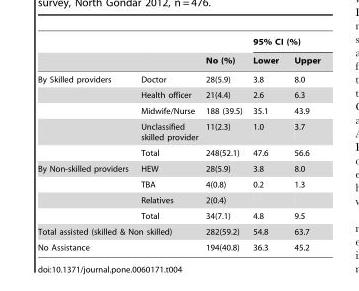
<table><thead><tr><td rowspan="2"></td><td rowspan="2"></td><td rowspan="2">No (%)</td><td colspan="2">95% CI (%)</td></tr><tr><td>Lower</td><td>Upper</td></tr></thead><tbody><tr><td rowspan="5">By Skilled providers</td><td>Doctor</td><td>28(5.9)</td><td>3.8</td><td>8.0</td></tr><tr><td>Health officer</td><td>21(4.4)</td><td>2.6</td><td>6.3</td></tr><tr><td>Midwife/Nurse</td><td>188 (39.5)</td><td>35.1</td><td>43.9</td></tr><tr><td>Unclassified skilled provider</td><td>11(2.3)</td><td>1.0</td><td>3.7</td></tr><tr><td>Total</td><td>248(52.1)</td><td>47.6</td><td>56.6</td></tr><tr><td rowspan="4">By Non-skilled providers</td><td>HEW</td><td>28(5.9)</td><td>3.8</td><td>8.0</td></tr><tr><td>TBA</td><td>4(0.8)</td><td>0.2</td><td>1.3</td></tr><tr><td>Relatives</td><td>2(0.4)</td><td></td><td></td></tr><tr><td>Total</td><td>34(7.1)</td><td>4.8</td><td>9.5</td></tr><tr><td colspan="2">Total assisted (skilled &amp; Non skilled)</td><td>282(59.2)</td><td>54.8</td><td>63.7</td></tr><tr><td colspan="2">No Assistance</td><td>194(40.8)</td><td>36.3</td><td>45.2</td></tr></tbody></table>